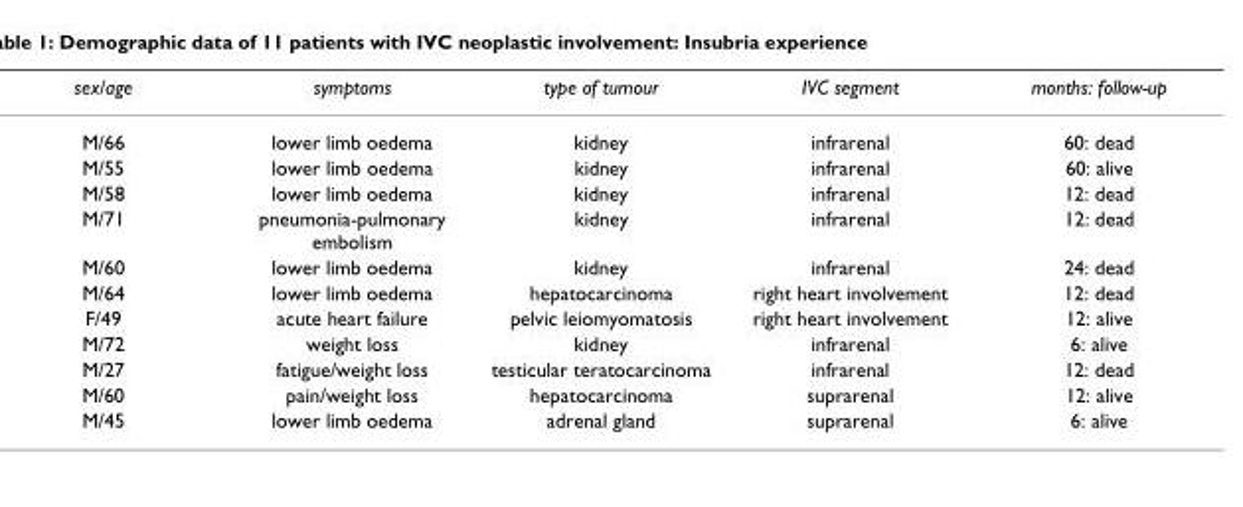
<table><thead><tr><td>sex/age</td><td>symptoms</td><td>type of tumour</td><td>IVC segment</td><td>months: follow-up</td></tr></thead><tbody><tr><td>M/66</td><td>lower limb oedema</td><td>kidney</td><td>infrarenal</td><td>60: dead</td></tr><tr><td>M/55</td><td>lower limb oedema</td><td>kidney</td><td>infrarenal</td><td>60: alive</td></tr><tr><td>M/58</td><td>lower limb oedema</td><td>kidney</td><td>infrarenal</td><td>12: dead</td></tr><tr><td>M/71</td><td>pneumonia-pulmonary embolism</td><td>kidney</td><td>infrarenal</td><td>12: dead</td></tr><tr><td>M/60</td><td>lower limb oedema</td><td>kidney</td><td>infrarenal</td><td>24: dead</td></tr><tr><td>M/64</td><td>lower limb oedema</td><td>hepatocarcinoma</td><td>right heart involvement</td><td>12: dead</td></tr><tr><td>F/49</td><td>acute heart failure</td><td>pelvic leiomyomatosis</td><td>right heart involvement</td><td>12: alive</td></tr><tr><td>M/72</td><td>weight loss</td><td>kidney</td><td>infrarenal</td><td>6: alive</td></tr><tr><td>M/27</td><td>fatigue/weight loss</td><td>testicular teratocarcinoma</td><td>infrarenal</td><td>12: dead</td></tr><tr><td>M/60</td><td>pain/weight loss</td><td>hepatocarcinoma</td><td>suprarenal</td><td>12: alive</td></tr><tr><td>M/45</td><td>lower limb oedema</td><td>adrenal gland</td><td>suprarenal</td><td>6: alive</td></tr></tbody></table>